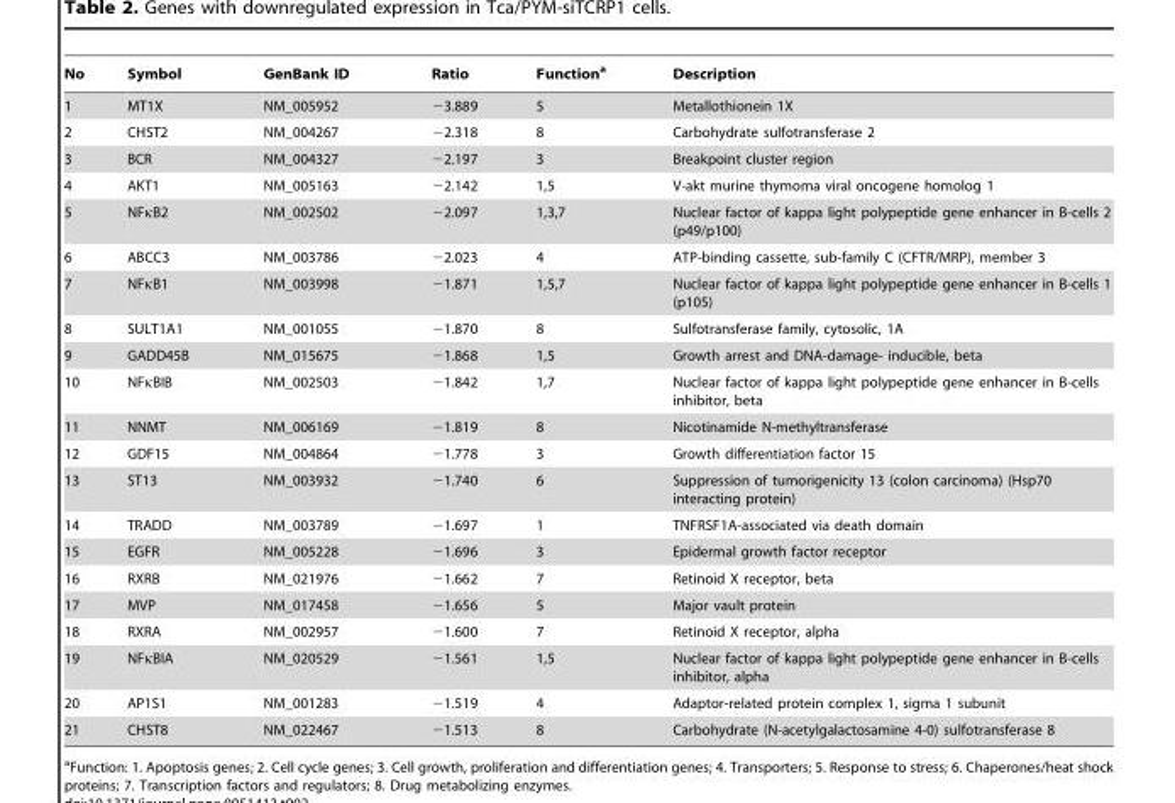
<table><thead><tr><td>No</td><td>Symbol</td><td>GenBank ID</td><td>Ratio</td><td>Function<sup>a</sup></td><td>Description</td></tr></thead><tbody><tr><td>1</td><td>MT1X</td><td>NM_005952</td><td>−3.889</td><td>5</td><td>Metallothionein 1X</td></tr><tr><td>2</td><td>CHST2</td><td>NM_004267</td><td>−2.318</td><td>8</td><td>Carbohydrate sulfotransferase 2</td></tr><tr><td>3</td><td>BCR</td><td>NM_004327</td><td>−2.197</td><td>3</td><td>Breakpoint cluster region</td></tr><tr><td>4</td><td>AKT1</td><td>NM_005163</td><td>−2.142</td><td>1,5</td><td>V-akt murine thymoma viral oncogene homolog 1</td></tr><tr><td>5</td><td>NFκB2</td><td>NM_002502</td><td>−2.097</td><td>1,3,7</td><td>Nuclear factor of kappa light polypeptide gene enhancer in B-cells 2 (p49/p100)</td></tr><tr><td>6</td><td>ABCC3</td><td>NM_003786</td><td>−2.023</td><td>4</td><td>ATP-binding cassette, sub-family C (CFTR/MRP), member 3</td></tr><tr><td>7</td><td>NFκB1</td><td>NM_003998</td><td>−1.871</td><td>1,5,7</td><td>Nuclear factor of kappa light polypeptide gene enhancer in B-cells 1 (p105)</td></tr><tr><td>8</td><td>SULT1A1</td><td>NM_001055</td><td>−1.870</td><td>8</td><td>Sulfotransferase family, cytosolic, 1A</td></tr><tr><td>9</td><td>GADD45B</td><td>NM_015675</td><td>−1.868</td><td>1,5</td><td>Growth arrest and DNA-damage- inducible, beta</td></tr><tr><td>10</td><td>NFκBIB</td><td>NM_002503</td><td>−1.842</td><td>1,7</td><td>Nuclear factor of kappa light polypeptide gene enhancer in B-cells inhibitor, beta</td></tr><tr><td>11</td><td>NNMT</td><td>NM_006169</td><td>−1.819</td><td>8</td><td>Nicotinamide N-methyltransferase</td></tr><tr><td>12</td><td>GDF15</td><td>NM_004864</td><td>−1.778</td><td>3</td><td>Growth differentiation factor 15</td></tr><tr><td>13</td><td>ST13</td><td>NM_003932</td><td>−1.740</td><td>6</td><td>Suppression of tumorigenicity 13 (colon carcinoma) (Hsp70 interacting protein)</td></tr><tr><td>14</td><td>TRADD</td><td>NM_003789</td><td>−1.697</td><td>1</td><td>TNFRSF1A-associated via death domain</td></tr><tr><td>15</td><td>EGFR</td><td>NM_005228</td><td>−1.696</td><td>3</td><td>Epidermal growth factor receptor</td></tr><tr><td>16</td><td>RXRB</td><td>NM_021976</td><td>−1.662</td><td>7</td><td>Retinoid X receptor, beta</td></tr><tr><td>17</td><td>MVP</td><td>NM_017458</td><td>−1.656</td><td>5</td><td>Major vault protein</td></tr><tr><td>18</td><td>RXRA</td><td>NM_002957</td><td>−1.600</td><td>7</td><td>Retinoid X receptor, alpha</td></tr><tr><td>19</td><td>NFκBIA</td><td>NM_020529</td><td>−1.561</td><td>1,5</td><td>Nuclear factor of kappa light polypeptide gene enhancer in B-cells inhibitor, alpha</td></tr><tr><td>20</td><td>AP1S1</td><td>NM_001283</td><td>−1.519</td><td>4</td><td>Adaptor-related protein complex 1, sigma 1 subunit</td></tr><tr><td>21</td><td>CHST8</td><td>NM_022467</td><td>−1.513</td><td>8</td><td>Carbohydrate (N-acetylgalactosamine 4-0) sulfotransferase 8</td></tr></tbody></table>